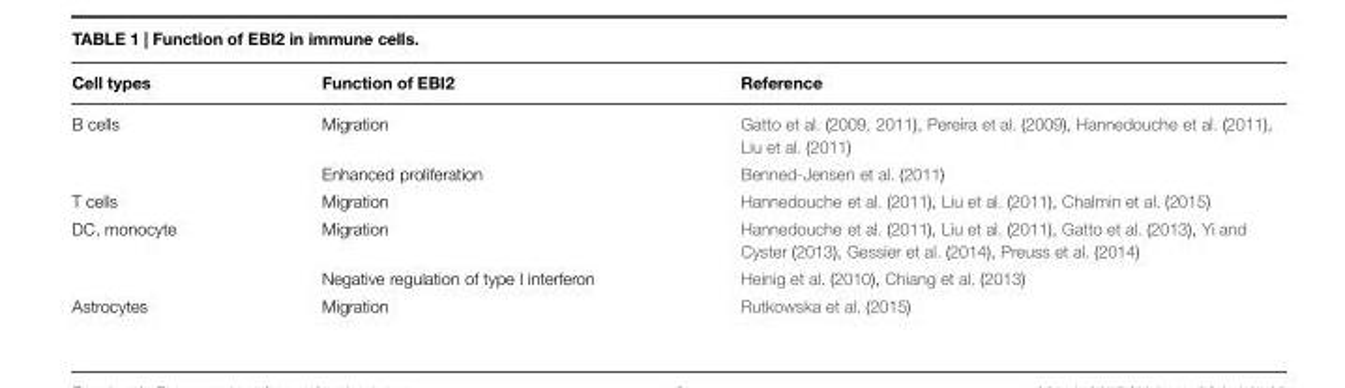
<table><thead><tr><td>Cell types</td><td>Function of EBI2</td><td>Reference</td></tr></thead><tbody><tr><td rowspan="2">B cells</td><td>Migration</td><td>Gatto et al. (2009, 2011), Pereira et al. (2009), Hannedouche et al. (2011), Liu et al. (2011)</td></tr><tr><td>Enhanced proliferation</td><td>Benned-Jensen et al. (2011)</td></tr><tr><td>T cells</td><td>Migration</td><td>Hannedouche et al. (2011), Liu et al. (2011), Chalmin et al. (2015)</td></tr><tr><td rowspan="2">DC, monocyte</td><td>Migration</td><td>Hannedouche et al. (2011), Liu et al. (2011), Gatto et al. (2013), Yi and Cyster (2013), Gessier et al. (2014), Preuss et al. (2014)</td></tr><tr><td>Negative regulation of type I interferon</td><td>Heinig et al. (2010), Chiang et al. (2013)</td></tr><tr><td>Astrocytes</td><td>Migration</td><td>Rutkowska et al. (2015)</td></tr></tbody></table>